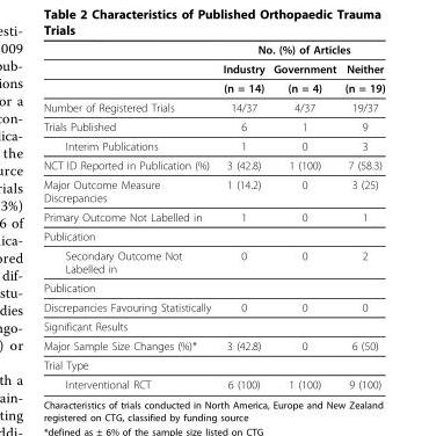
<table><thead><tr><td rowspan="2"></td><td colspan="3">No. (%) of Articles</td></tr><tr><td>Industry</td><td>Government</td><td>Neither</td></tr></thead><tbody><tr><td></td><td>(n = 14)</td><td>(n = 4)</td><td>(n = 19)</td></tr><tr><td>Number of Registered Trials</td><td>14/37</td><td>4/37</td><td>19/37</td></tr><tr><td>Trials Published</td><td>6</td><td>1</td><td>9</td></tr><tr><td>Interim Publications</td><td>1</td><td>0</td><td>3</td></tr><tr><td>NCT ID Reported in Publication (%)</td><td>3 (42.8)</td><td>1 (100)</td><td>7 (58.3)</td></tr><tr><td>Major Outcome Measure Discrepancies</td><td>1 (14.2)</td><td>0</td><td>3 (25)</td></tr><tr><td>Primary Outcome Not Labelled in</td><td>1</td><td>0</td><td>1</td></tr><tr><td colspan="4">Publication</td></tr><tr><td>Secondary Outcome Not Labelled in</td><td>0</td><td>0</td><td>2</td></tr><tr><td colspan="4">Publication</td></tr><tr><td>Discrepancies Favouring Statistically</td><td>0</td><td>0</td><td>0</td></tr><tr><td colspan="4">Significant Results</td></tr><tr><td>Major Sample Size Changes (%)*</td><td>3 (42.8)</td><td>0</td><td>6 (50)</td></tr><tr><td colspan="4">Trial Type</td></tr><tr><td>Interventional RCT</td><td>6 (100)</td><td>1 (100)</td><td>9 (100)</td></tr></tbody></table>